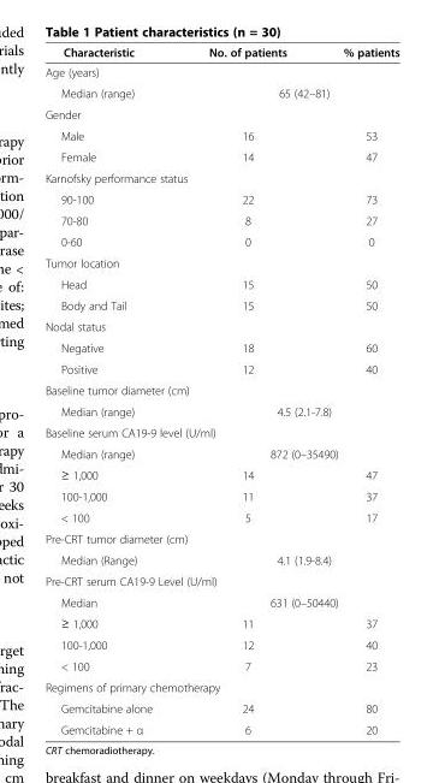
<table><thead><tr><td>Characteristic</td><td>No. of patients</td><td>% patients</td></tr></thead><tbody><tr><td colspan="3">Age (years)</td></tr><tr><td>Median (range)</td><td colspan="2">65 (42–81)</td></tr><tr><td colspan="3">Gender</td></tr><tr><td>Male</td><td>16</td><td>53</td></tr><tr><td>Female</td><td>14</td><td>47</td></tr><tr><td colspan="3">Karnofsky performance status</td></tr><tr><td>90-100</td><td>22</td><td>73</td></tr><tr><td>70-80</td><td>8</td><td>27</td></tr><tr><td>0-60</td><td>0</td><td>0</td></tr><tr><td colspan="3">Tumor location</td></tr><tr><td>Head</td><td>15</td><td>50</td></tr><tr><td>Body and Tail</td><td>15</td><td>50</td></tr><tr><td colspan="3">Nodal status</td></tr><tr><td>Negative</td><td>18</td><td>60</td></tr><tr><td>Positive</td><td>12</td><td>40</td></tr><tr><td colspan="3">Baseline tumor diameter (cm)</td></tr><tr><td>Median (range)</td><td colspan="2">4.5 (2.1-7.8)</td></tr><tr><td colspan="3">Baseline serum CA19-9 level (U/ml)</td></tr><tr><td>Median (range)</td><td colspan="2">872 (0–35490)</td></tr><tr><td>≥ 1,000</td><td>14</td><td>47</td></tr><tr><td>100-1,000</td><td>11</td><td>37</td></tr><tr><td>&lt; 100</td><td>5</td><td>17</td></tr><tr><td colspan="3">Pre-CRT tumor diameter (cm)</td></tr><tr><td>Median (Range)</td><td colspan="2">4.1 (1.9-8.4)</td></tr><tr><td colspan="3">Pre-CRT serum CA19-9 Level (U/ml)</td></tr><tr><td>Median</td><td colspan="2">631 (0–50440)</td></tr><tr><td>≥ 1,000</td><td>11</td><td>37</td></tr><tr><td>100-1,000</td><td>12</td><td>40</td></tr><tr><td>&lt; 100</td><td>7</td><td>23</td></tr><tr><td colspan="3">Regimens of primary chemotherapy</td></tr><tr><td>Gemcitabine alone</td><td>24</td><td>80</td></tr><tr><td>Gemcitabine + α</td><td>6</td><td>20</td></tr></tbody></table>